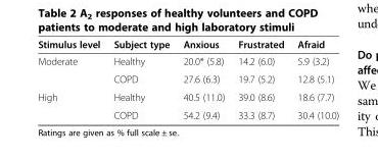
<table><thead><tr><td>Stimulus level</td><td>Subject type</td><td>Anxious</td><td>Frustrated</td><td>Afraid</td></tr></thead><tbody><tr><td rowspan="2">Moderate</td><td>Healthy</td><td>20.0* (5.8)</td><td>14.2 (6.0)</td><td>5.9 (3.2)</td></tr><tr><td>COPD</td><td>27.6 (6.3)</td><td>19.7 (5.2)</td><td>12.8 (5.1)</td></tr><tr><td rowspan="2">High</td><td>Healthy</td><td>40.5 (11.0)</td><td>39.0 (8.6)</td><td>18.6 (7.7)</td></tr><tr><td>COPD</td><td>54.2 (9.4)</td><td>33.3 (8.7)</td><td>30.4 (10.0)</td></tr></tbody></table>